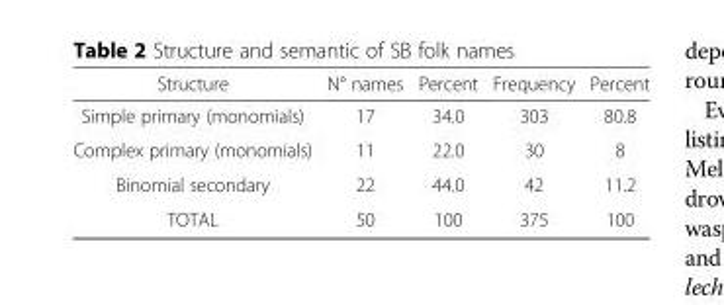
<table><thead><tr><td>Structure</td><td>N° names</td><td>Percent</td><td>Frequency</td><td>Percent</td></tr></thead><tbody><tr><td>Simple primary (monomials)</td><td>17</td><td>34.0</td><td>303</td><td>80.8</td></tr><tr><td>Complex primary (monomials)</td><td>11</td><td>22.0</td><td>30</td><td>8</td></tr><tr><td>Binomial secondary</td><td>22</td><td>44.0</td><td>42</td><td>11.2</td></tr><tr><td>TOTAL</td><td>50</td><td>100</td><td>375</td><td>100</td></tr></tbody></table>